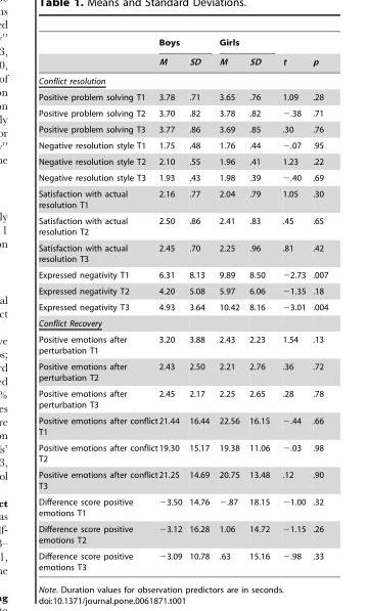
<table><thead><tr><td rowspan="2"></td><td colspan="2">Boys</td><td colspan="2">Girls</td><td rowspan="2">t</td><td rowspan="2">p</td></tr><tr><td>M</td><td>SD</td><td>M</td><td>SD</td></tr></thead><tbody><tr><td colspan="7">Conflict resolution</td></tr><tr><td>Positive problem solving T1</td><td>3.78</td><td>.71</td><td>3.65</td><td>.76</td><td>1.09</td><td>.28</td></tr><tr><td>Positive problem solving T2</td><td>3.70</td><td>.82</td><td>3.78</td><td>.82</td><td>−.38</td><td>.71</td></tr><tr><td>Positive problem solving T3</td><td>3.77</td><td>.86</td><td>3.69</td><td>.85</td><td>.30</td><td>.76</td></tr><tr><td>Negative resolution style T1</td><td>1.75</td><td>.48</td><td>1.76</td><td>.44</td><td>−.07</td><td>.95</td></tr><tr><td>Negative resolution style T2</td><td>2.10</td><td>.55</td><td>1.96</td><td>.41</td><td>1.23</td><td>.22</td></tr><tr><td>Negative resolution style T3</td><td>1.93</td><td>.43</td><td>1.98</td><td>.39</td><td>−.40</td><td>.69</td></tr><tr><td>Satisfaction with actual resolution T1</td><td>2.16</td><td>.77</td><td>2.04</td><td>.79</td><td>1.05</td><td>.30</td></tr><tr><td>Satisfaction with actual resolution T2</td><td>2.50</td><td>.86</td><td>2.41</td><td>.83</td><td>.45</td><td>.65</td></tr><tr><td>Satisfaction with actual resolution T3</td><td>2.45</td><td>.70</td><td>2.25</td><td>.96</td><td>.81</td><td>.42</td></tr><tr><td>Expressed negativity T1</td><td>6.31</td><td>8.13</td><td>9.89</td><td>8.50</td><td>−2.73</td><td>.007</td></tr><tr><td>Expressed negativity T2</td><td>4.20</td><td>5.08</td><td>5.97</td><td>6.06</td><td>−1.35</td><td>.18</td></tr><tr><td>Expressed negativity T3</td><td>4.93</td><td>3.64</td><td>10.42</td><td>8.16</td><td>−3.01</td><td>.004</td></tr><tr><td colspan="7">Conflict Recovery</td></tr><tr><td>Positive emotions after perturbation T1</td><td>3.20</td><td>3.88</td><td>2.43</td><td>2.23</td><td>1.54</td><td>.13</td></tr><tr><td>Positive emotions after perturbation T2</td><td>2.43</td><td>2.50</td><td>2.21</td><td>2.76</td><td>.36</td><td>.72</td></tr><tr><td>Positive emotions after perturbation T3</td><td>2.45</td><td>2.17</td><td>2.25</td><td>2.65</td><td>.28</td><td>.78</td></tr><tr><td>Positive emotions after conflict T1</td><td>21.44</td><td>16.44</td><td>22.56</td><td>16.15</td><td>−.44</td><td>.66</td></tr><tr><td>Positive emotions after conflict T2</td><td>19.30</td><td>15.17</td><td>19.38</td><td>11.06</td><td>−.03</td><td>.98</td></tr><tr><td>Positive emotions after conflict T3</td><td>21.25</td><td>14.69</td><td>20.75</td><td>13.48</td><td>.12</td><td>.90</td></tr><tr><td>Difference score positive emotions T1</td><td>−3.50</td><td>14.76</td><td>−.87</td><td>18.15</td><td>−1.00</td><td>.32</td></tr><tr><td>Difference score positive emotions T2</td><td>−3.12</td><td>16.28</td><td>1.06</td><td>14.72</td><td>−1.15</td><td>.26</td></tr><tr><td>Difference score positive emotions T3</td><td>−3.09</td><td>10.78</td><td>.63</td><td>15.16</td><td>−.98</td><td>.33</td></tr></tbody></table>